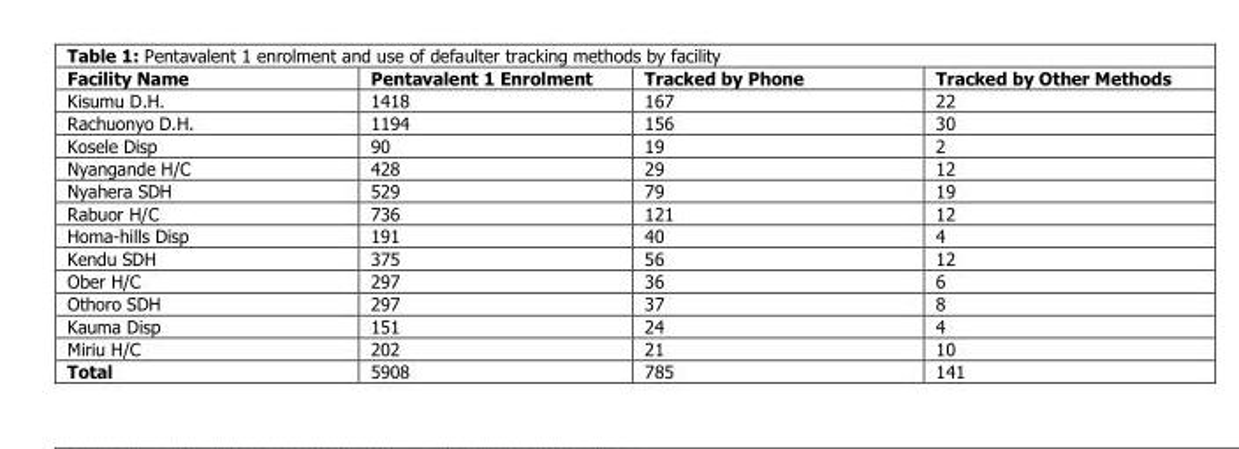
<table><thead><tr><td>Facility Name</td><td>Pentavalent 1 Enrolment</td><td>Tracked by Phone</td><td>Tracked by Other Methods</td></tr></thead><tbody><tr><td>Kisumu D.H.</td><td>1418</td><td>167</td><td>22</td></tr><tr><td>Rachuonyo D.H.</td><td>1194</td><td>156</td><td>30</td></tr><tr><td>Kosele Disp</td><td>90</td><td>19</td><td>2</td></tr><tr><td>Nyangande H/C</td><td>428</td><td>29</td><td>12</td></tr><tr><td>Nyahera SDH</td><td>529</td><td>79</td><td>19</td></tr><tr><td>Rabuor H/C</td><td>736</td><td>121</td><td>12</td></tr><tr><td>Homa-hills Disp</td><td>191</td><td>40</td><td>4</td></tr><tr><td>Kendu SDH</td><td>375</td><td>56</td><td>12</td></tr><tr><td>Ober H/C</td><td>297</td><td>36</td><td>6</td></tr><tr><td>Othoro SDH</td><td>297</td><td>37</td><td>8</td></tr><tr><td>Kauma Disp</td><td>151</td><td>24</td><td>4</td></tr><tr><td>Miriu H/C</td><td>202</td><td>21</td><td>10</td></tr><tr><td>Total</td><td>5908</td><td>785</td><td>141</td></tr></tbody></table>